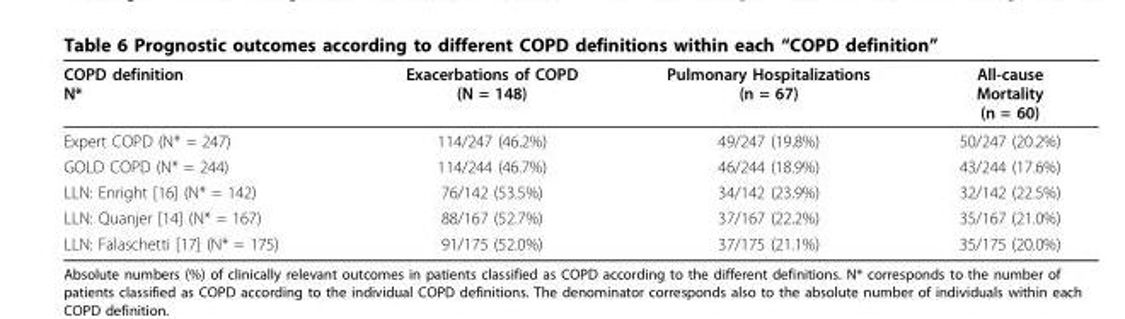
<table><thead><tr><td>COPD definition N*</td><td>Exacerbations of COPD (N = 148)</td><td>Pulmonary Hospitalizations (n = 67)</td><td>All-cause Mortality (n = 60)</td></tr></thead><tbody><tr><td>Expert COPD (N* = 247)</td><td>114/247 (46.2%)</td><td>49/247 (19.8%)</td><td>50/247 (20.2%)</td></tr><tr><td>GOLD COPD (N* = 244)</td><td>114/244 (46.7%)</td><td>46/244 (18.9%)</td><td>43/244 (17.6%)</td></tr><tr><td>LLN: Enright [16] (N* = 142)</td><td>76/142 (53.5%)</td><td>34/142 (23.9%)</td><td>32/142 (22.5%)</td></tr><tr><td>LLN: Quanjer [14] (N* = 167)</td><td>88/167 (52.7%)</td><td>37/167 (22.2%)</td><td>35/167 (21.0%)</td></tr><tr><td>LLN: Falaschetti [17] (N* = 175)</td><td>91/175 (52.0%)</td><td>37/175 (21.1%)</td><td>35/175 (20.0%)</td></tr></tbody></table>